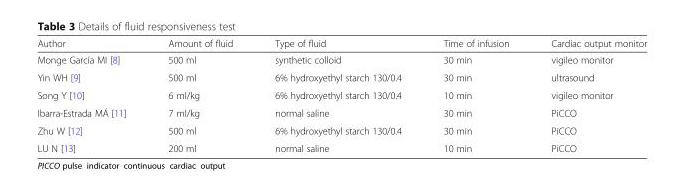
<table><thead><tr><td>Author</td><td>Amount of fluid</td><td>Type of fluid</td><td>Time of infusion</td><td>Cardiac output monitor</td></tr></thead><tbody><tr><td>Monge García MI [8]</td><td>500 ml</td><td>synthetic colloid</td><td>30 min</td><td>vigileo monitor</td></tr><tr><td>Yin WH [9]</td><td>500 ml</td><td>6% hydroxyethyl starch 130/0.4</td><td>30 min</td><td>ultrasound</td></tr><tr><td>Song Y [10]</td><td>6 ml/kg</td><td>6% hydroxyethyl starch 130/0.4</td><td>10 min</td><td>vigileo monitor</td></tr><tr><td>Ibarra-Estrada MÁ [11]</td><td>7 ml/kg</td><td>normal saline</td><td>30 min</td><td>PiCCO</td></tr><tr><td>Zhu W [12]</td><td>500 ml</td><td>6% hydroxyethyl starch 130/0.4</td><td>30 min</td><td>PiCCO</td></tr><tr><td>LU N [13]</td><td>200 ml</td><td>normal saline</td><td>10 min</td><td>PiCCO</td></tr></tbody></table>